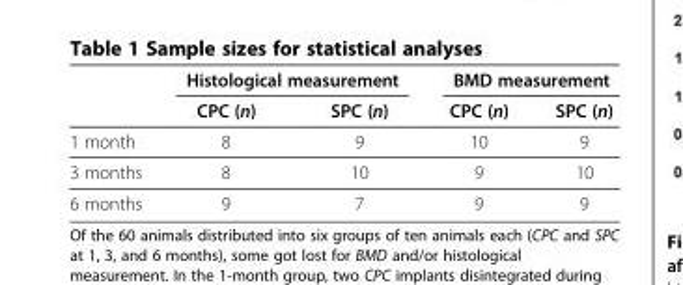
<table><thead><tr><td rowspan="2"></td><td colspan="2">Histological measurement</td><td colspan="2">BMD measurement</td></tr><tr><td>CPC (n)</td><td>SPC (n)</td><td>CPC (n)</td><td>SPC (n)</td></tr></thead><tbody><tr><td>1 month</td><td>8</td><td>9</td><td>10</td><td>9</td></tr><tr><td>3 months</td><td>8</td><td>10</td><td>9</td><td>10</td></tr><tr><td>6 months</td><td>9</td><td>7</td><td>9</td><td>9</td></tr></tbody></table>